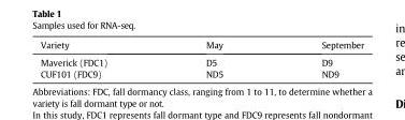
<table><thead><tr><td>Variety</td><td>May</td><td>September</td></tr></thead><tbody><tr><td>Maverick (FDC1)</td><td>D5</td><td>D9</td></tr><tr><td>CUF101 (FDC9)</td><td>ND5</td><td>ND9</td></tr></tbody></table>